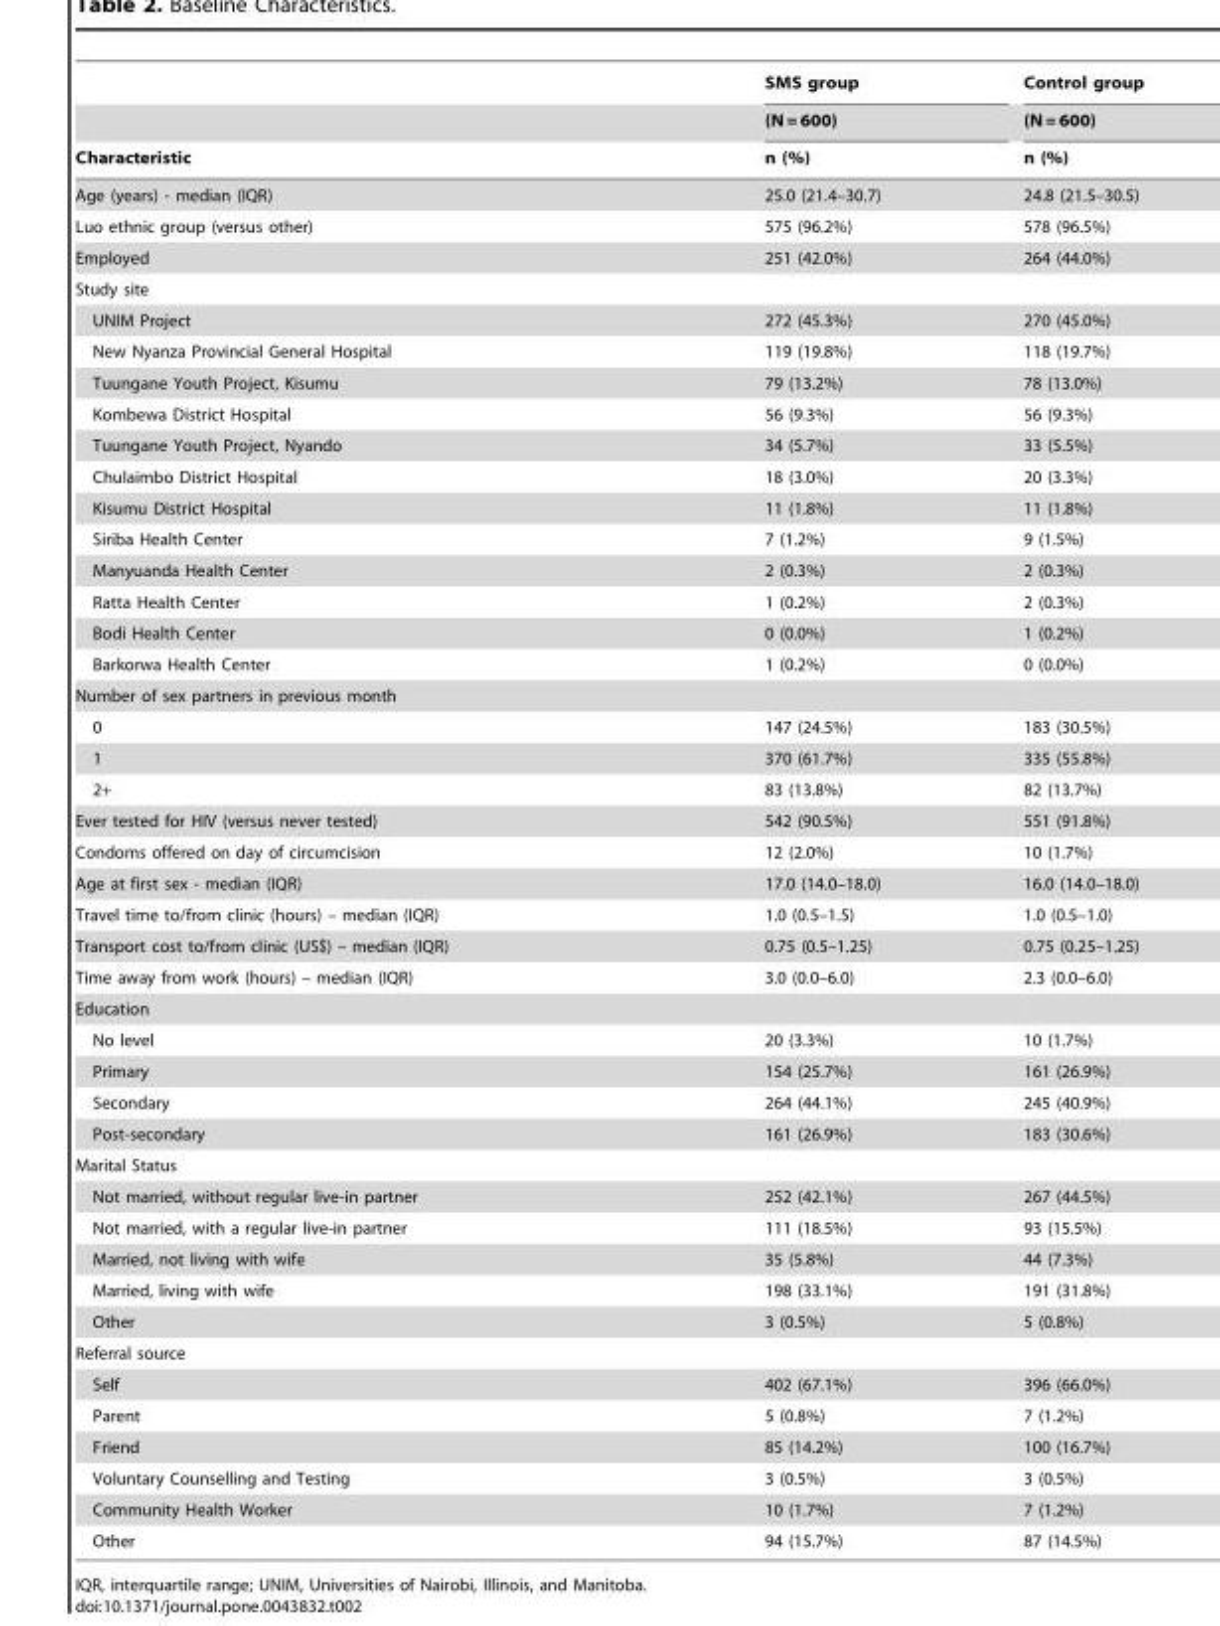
<table><thead><tr><td rowspan="3">Characteristic</td><td rowspan="3">SMS group (N = 600) n (%)</td><td rowspan="3">Control group (N = 600) n (%)</td></tr><tr></tr><tr></tr></thead><tbody><tr><td>Age (years) - median (IQR)</td><td>25.0 (21.4–30.7)</td><td>24.8 (21.5–30.5)</td></tr><tr><td>Luo ethnic group (versus other)</td><td>575 (96.2%)</td><td>578 (96.5%)</td></tr><tr><td>Employed</td><td>251 (42.0%)</td><td>264 (44.0%)</td></tr><tr><td colspan="3">Study site</td></tr><tr><td>UNIM Project</td><td>272 (45.3%)</td><td>270 (45.0%)</td></tr><tr><td>New Nyanza Provincial General Hospital</td><td>119 (19.8%)</td><td>118 (19.7%)</td></tr><tr><td>Tuungane Youth Project, Kisumu</td><td>79 (13.2%)</td><td>78 (13.0%)</td></tr><tr><td>Kombewa District Hospital</td><td>56 (9.3%)</td><td>56 (9.3%)</td></tr><tr><td>Tuungane Youth Project, Nyando</td><td>34 (5.7%)</td><td>33 (5.5%)</td></tr><tr><td>Chulaimbo District Hospital</td><td>18 (3.0%)</td><td>20 (3.3%)</td></tr><tr><td>Kisumu District Hospital</td><td>11 (1.8%)</td><td>11 (1.8%)</td></tr><tr><td>Siriba Health Center</td><td>7 (1.2%)</td><td>9 (1.5%)</td></tr><tr><td>Manyuanda Health Center</td><td>2 (0.3%)</td><td>2 (0.3%)</td></tr><tr><td>Ratta Health Center</td><td>1 (0.2%)</td><td>2 (0.3%)</td></tr><tr><td>Bodi Health Center</td><td>0 (0.0%)</td><td>1 (0.2%)</td></tr><tr><td>Barkorwa Health Center</td><td>1 (0.2%)</td><td>0 (0.0%)</td></tr><tr><td colspan="3">Number of sex partners in previous month</td></tr><tr><td>0</td><td>147 (24.5%)</td><td>183 (30.5%)</td></tr><tr><td>1</td><td>370 (61.7%)</td><td>335 (55.8%)</td></tr><tr><td>2+</td><td>83 (13.8%)</td><td>82 (13.7%)</td></tr><tr><td>Ever tested for HIV (versus never tested)</td><td>542 (90.5%)</td><td>551 (91.8%)</td></tr><tr><td>Condoms offered on day of circumcision</td><td>12 (2.0%)</td><td>10 (1.7%)</td></tr><tr><td>Age at first sex - median (IQR)</td><td>17.0 (14.0–18.0)</td><td>16.0 (14.0–18.0)</td></tr><tr><td>Travel time to/from clinic (hours) – median (IQR)</td><td>1.0 (0.5–1.5)</td><td>1.0 (0.5–1.0)</td></tr><tr><td>Transport cost to/from clinic (US$) – median (IQR)</td><td>0.75 (0.5–1.25)</td><td>0.75 (0.25–1.25)</td></tr><tr><td>Time away from work (hours) – median (IQR)</td><td>3.0 (0.0–6.0)</td><td>2.3 (0.0–6.0)</td></tr><tr><td colspan="3">Education</td></tr><tr><td>No level</td><td>20 (3.3%)</td><td>10 (1.7%)</td></tr><tr><td>Primary</td><td>154 (25.7%)</td><td>161 (26.9%)</td></tr><tr><td>Secondary</td><td>264 (44.1%)</td><td>245 (40.9%)</td></tr><tr><td>Post-secondary</td><td>161 (26.9%)</td><td>183 (30.6%)</td></tr><tr><td colspan="3">Marital Status</td></tr><tr><td>Not married, without regular live-in partner</td><td>252 (42.1%)</td><td>267 (44.5%)</td></tr><tr><td>Not married, with a regular live-in partner</td><td>111 (18.5%)</td><td>93 (15.5%)</td></tr><tr><td>Married, not living with wife</td><td>35 (5.8%)</td><td>44 (7.3%)</td></tr><tr><td>Married, living with wife</td><td>198 (33.1%)</td><td>191 (31.8%)</td></tr><tr><td>Other</td><td>3 (0.5%)</td><td>5 (0.8%)</td></tr><tr><td colspan="3">Referral source</td></tr><tr><td>Self</td><td>402 (67.1%)</td><td>396 (66.0%)</td></tr><tr><td>Parent</td><td>5 (0.8%)</td><td>7 (1.2%)</td></tr><tr><td>Friend</td><td>85 (14.2%)</td><td>100 (16.7%)</td></tr><tr><td>Voluntary Counselling and Testing</td><td>3 (0.5%)</td><td>3 (0.5%)</td></tr><tr><td>Community Health Worker</td><td>10 (1.7%)</td><td>7 (1.2%)</td></tr><tr><td>Other</td><td>94 (15.7%)</td><td>87 (14.5%)</td></tr></tbody></table>